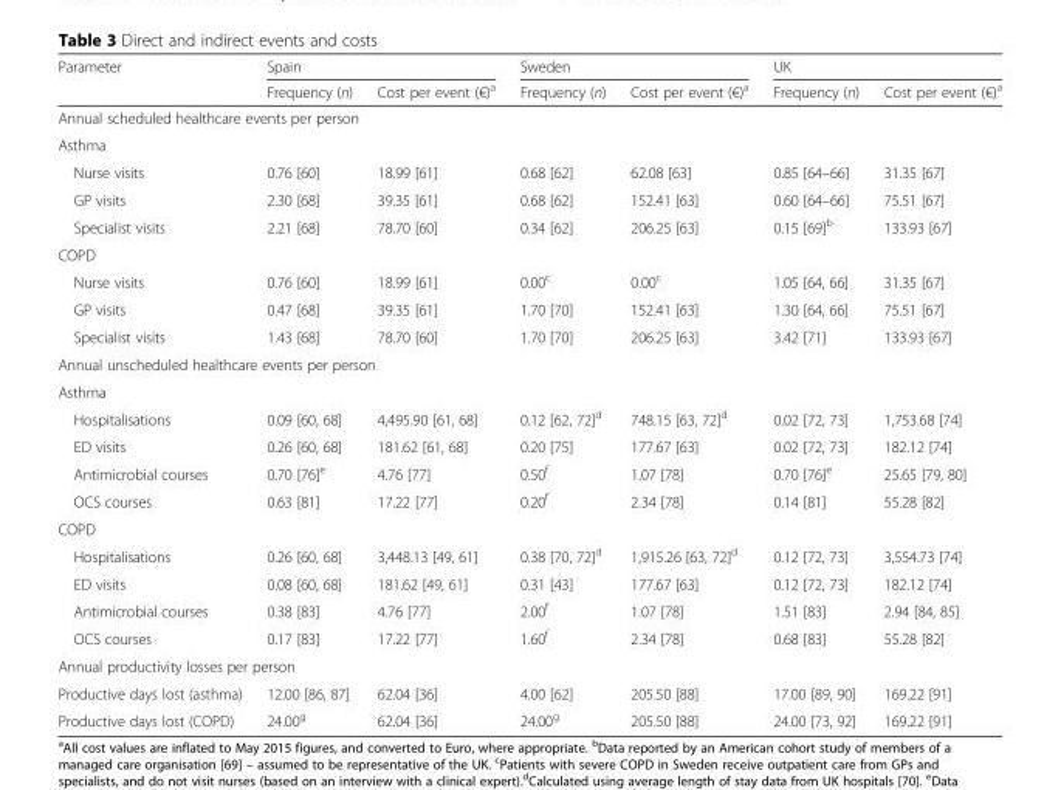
<table><thead><tr><td rowspan="2">Parameter</td><td colspan="2">Spain</td><td colspan="2">Sweden</td><td colspan="2">UK</td></tr><tr><td>Frequency (n)</td><td>Cost per event (€)<sup>a</sup></td><td>Frequency (n)</td><td>Cost per event (€)<sup>a</sup></td><td>Frequency (n)</td><td>Cost per event (€)<sup>a</sup></td></tr></thead><tbody><tr><td colspan="7">Annual scheduled healthcare events per person</td></tr><tr><td colspan="7">Asthma</td></tr><tr><td>Nurse visits</td><td>0.76 [60]</td><td>18.99 [61]</td><td>0.68 [62]</td><td>62.08 [63]</td><td>0.85 [64–66]</td><td>31.35 [67]</td></tr><tr><td>GP visits</td><td>2.30 [68]</td><td>39.35 [61]</td><td>0.68 [62]</td><td>152.41 [63]</td><td>0.60 [64–66]</td><td>75.51 [67]</td></tr><tr><td>Specialist visits</td><td>2.21 [68]</td><td>78.70 [60]</td><td>0.34 [62]</td><td>206.25 [63]</td><td>0.15 [69]<sup>b</sup></td><td>133.93 [67]</td></tr><tr><td colspan="7">COPD</td></tr><tr><td>Nurse visits</td><td>0.76 [60]</td><td>18.99 [61]</td><td>0.00<sup>c</sup></td><td>0.00<sup>c</sup></td><td>1.05 [64, 66]</td><td>31.35 [67]</td></tr><tr><td>GP visits</td><td>0.47 [68]</td><td>39.35 [61]</td><td>1.70 [70]</td><td>152.41 [63]</td><td>1.30 [64, 66]</td><td>75.51 [67]</td></tr><tr><td>Specialist visits</td><td>1.43 [68]</td><td>78.70 [60]</td><td>1.70 [70]</td><td>206.25 [63]</td><td>3.42 [71]</td><td>133.93 [67]</td></tr><tr><td colspan="7">Annual unscheduled healthcare events per person</td></tr><tr><td colspan="7">Asthma</td></tr><tr><td>Hospitalisations</td><td>0.09 [60, 68]</td><td>4,495.90 [61, 68]</td><td>0.12 [62, 72]<sup>d</sup></td><td>748.15 [63, 72]<sup>d</sup></td><td>0.02 [72, 73]</td><td>1,753.68 [74]</td></tr><tr><td>ED visits</td><td>0.26 [60, 68]</td><td>181.62 [61, 68]</td><td>0.20 [75]</td><td>177.67 [63]</td><td>0.02 [72, 73]</td><td>182.12 [74]</td></tr><tr><td>Antimicrobial courses</td><td>0.70 [76]<sup>e</sup></td><td>4.76 [77]</td><td>0.50<sup>f</sup></td><td>1.07 [78]</td><td>0.70 [76]<sup>e</sup></td><td>25.65 [79, 80]</td></tr><tr><td>OCS courses</td><td>0.63 [81]</td><td>17.22 [77]</td><td>0.20<sup>f</sup></td><td>2.34 [78]</td><td>0.14 [81]</td><td>55.28 [82]</td></tr><tr><td colspan="7">COPD</td></tr><tr><td>Hospitalisations</td><td>0.26 [60, 68]</td><td>3,448.13 [49, 61]</td><td>0.38 [70, 72]<sup>d</sup></td><td>1,915.26 [63, 72]<sup>d</sup></td><td>0.12 [72, 73]</td><td>3,554.73 [74]</td></tr><tr><td>ED visits</td><td>0.08 [60, 68]</td><td>181.62 [49, 61]</td><td>0.31 [43]</td><td>177.67 [63]</td><td>0.12 [72, 73]</td><td>182.12 [74]</td></tr><tr><td>Antimicrobial courses</td><td>0.38 [83]</td><td>4.76 [77]</td><td>2.00<sup>f</sup></td><td>1.07 [78]</td><td>1.51 [83]</td><td>2.94 [84, 85]</td></tr><tr><td>OCS courses</td><td>0.17 [83]</td><td>17.22 [77]</td><td>1.60<sup>f</sup></td><td>2.34 [78]</td><td>0.68 [83]</td><td>55.28 [82]</td></tr><tr><td colspan="7">Annual productivity losses per person</td></tr><tr><td>Productive days lost (asthma)</td><td>12.00 [86, 87]</td><td>62.04 [36]</td><td>4.00 [62]</td><td>205.50 [88]</td><td>17.00 [89, 90]</td><td>169.22 [91]</td></tr><tr><td>Productive days lost (COPD)</td><td>24.00<sup>g</sup></td><td>62.04 [36]</td><td>24.00<sup>g</sup></td><td>205.50 [88]</td><td>24.00 [73, 92]</td><td>169.22 [91]</td></tr></tbody></table>